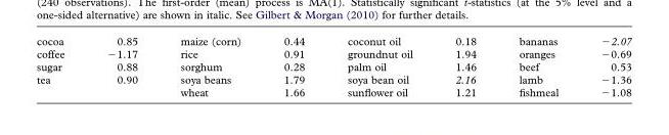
<table><tbody><tr><td>cocoa</td><td>0.85</td><td>maize (corn)</td><td>0.44</td><td>coconut oil</td><td>0.18</td><td>bananas</td><td>−2.07</td></tr><tr><td>coffee</td><td>−1.17</td><td>rice</td><td>0.91</td><td>groundnut oil</td><td>1.94</td><td>oranges</td><td>−0.69</td></tr><tr><td>sugar</td><td>0.88</td><td>sorghum</td><td>0.28</td><td>palm oil</td><td>1.46</td><td>beef</td><td>0.53</td></tr><tr><td rowspan="2">tea</td><td>0.90</td><td>soya beans</td><td>1.79</td><td>soya bean oil</td><td>2.16</td><td>lamb</td><td>−1.36</td></tr><tr><td></td><td>wheat</td><td>1.66</td><td>sunflower oil</td><td>1.21</td><td>fishmeal</td><td>−1.08</td></tr></tbody></table>